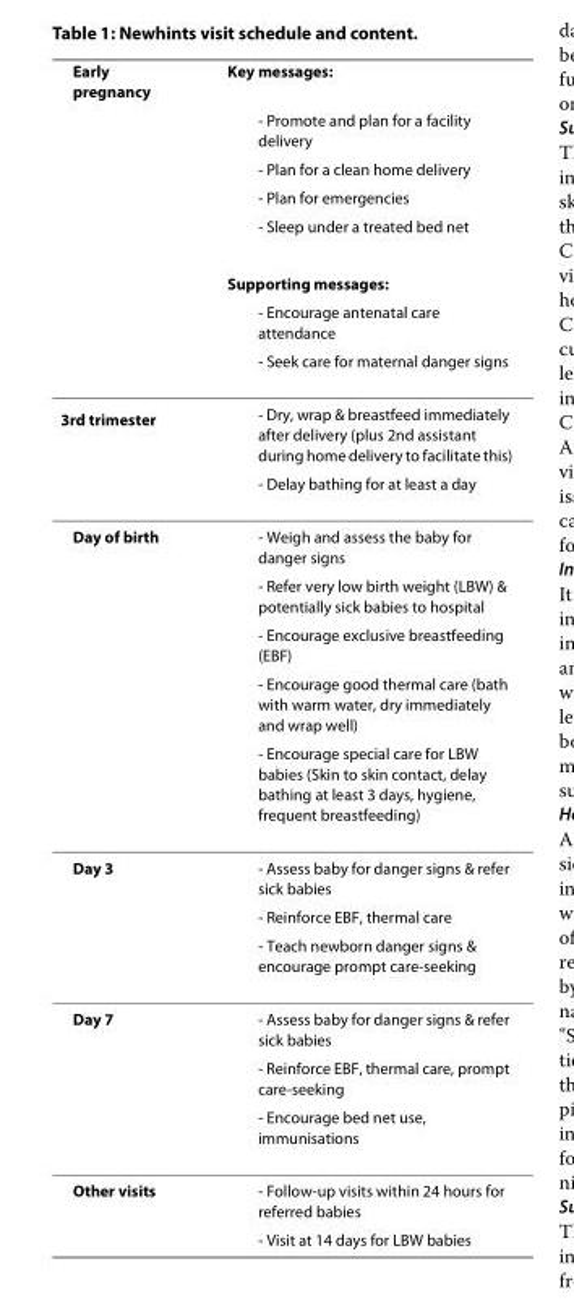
<table><thead><tr><td rowspan="8">Early pregnancy</td><td rowspan="8">Key messages: - Promote and plan for a facility delivery - Plan for a clean home delivery - Plan for emergencies - Sleep under a treated bed net Supporting messages: - Encourage antenatal care attendance - Seek care for maternal danger signs</td></tr><tr></tr><tr></tr><tr></tr><tr></tr><tr></tr><tr></tr><tr></tr></thead><tbody><tr><td rowspan="2">3rd trimester</td><td>- Dry, wrap &amp; breastfeed immediately after delivery (plus 2nd assistant during home delivery to facilitate this)</td></tr><tr><td>- Delay bathing for at least a day</td></tr><tr><td rowspan="5">Day of birth</td><td>- Weigh and assess the baby for danger signs</td></tr><tr><td>- Refer very low birth weight (LBW) &amp; potentially sick babies to hospital</td></tr><tr><td>- Encourage exclusive breastfeeding (EBF)</td></tr><tr><td>- Encourage good thermal care (bath with warm water, dry immediately and wrap well)</td></tr><tr><td>- Encourage special care for LBW babies (Skin to skin contact, delay bathing at least 3 days, hygiene, frequent breastfeeding)</td></tr><tr><td rowspan="3">Day 3</td><td>- Assess baby for danger signs &amp; refer sick babies</td></tr><tr><td>- Reinforce EBF, thermal care</td></tr><tr><td>- Teach newborn danger signs &amp; encourage prompt care-seeking</td></tr><tr><td rowspan="3">Day 7</td><td>- Assess baby for danger signs &amp; refer sick babies</td></tr><tr><td>- Reinforce EBF, thermal care, prompt care-seeking</td></tr><tr><td>- Encourage bed net use, immunisations</td></tr><tr><td rowspan="2">Other visits</td><td>- Follow-up visits within 24 hours for referred babies</td></tr><tr><td>- Visit at 14 days for LBW babies</td></tr></tbody></table>